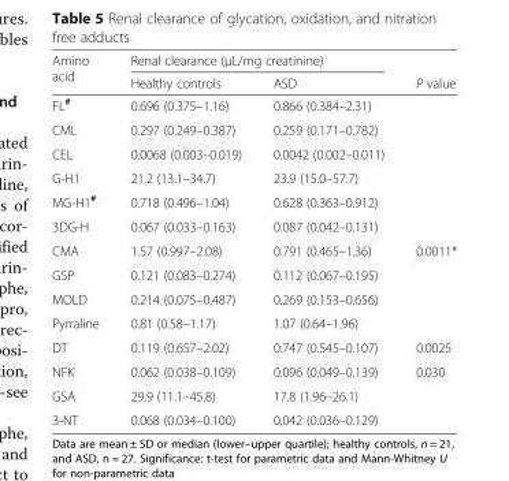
<table><thead><tr><td rowspan="2">Amino acid</td><td colspan="2">Renal clearance (μL/mg creatinine)</td><td rowspan="2">P value</td></tr><tr><td>Healthy controls</td><td>ASD</td></tr></thead><tbody><tr><td>FL<sup>#</sup></td><td>0.696 (0.375–1.16)</td><td>0.866 (0.384–2.31)</td><td></td></tr><tr><td>CML</td><td>0.297 (0.249–0.387)</td><td>0.259 (0.171–0.782)</td><td></td></tr><tr><td>CEL</td><td>0.0068 (0.003–0.019)</td><td>0.0042 (0.002–0.011)</td><td></td></tr><tr><td>G-H1</td><td>21.2 (13.1–34.7)</td><td>23.9 (15.0–57.7)</td><td></td></tr><tr><td>MG-H1<sup>#</sup></td><td>0.718 (0.496–1.04)</td><td>0.628 (0.363–0.912)</td><td></td></tr><tr><td>3DG-H</td><td>0.067 (0.033–0.163)</td><td>0.087 (0.042–0.131)</td><td></td></tr><tr><td>CMA</td><td>1.57 (0.997–2.08)</td><td>0.791 (0.465–1.36)</td><td>0.0011*</td></tr><tr><td>GSP</td><td>0.121 (0.083–0.274)</td><td>0.112 (0.067–0.195)</td><td></td></tr><tr><td>MOLD</td><td>0.214 (0.075–0.487)</td><td>0.269 (0.153–0.656)</td><td></td></tr><tr><td>Pyrraline</td><td>0.81 (0.58–1.17)</td><td>1.07 (0.64–1.96)</td><td></td></tr><tr><td>DT</td><td>0.119 (0.657–2.02)</td><td>0.747 (0.545–0.107)</td><td>0.0025</td></tr><tr><td>NFK</td><td>0.062 (0.038–0.109)</td><td>0.096 (0.049–0.139)</td><td>0.030</td></tr><tr><td>GSA</td><td>29.9 (11.1–45.8)</td><td>17.8 (1.96–26.1)</td><td></td></tr><tr><td>3-NT</td><td>0.068 (0.034–0.100)</td><td>0.042 (0.036–0.129)</td><td></td></tr></tbody></table>